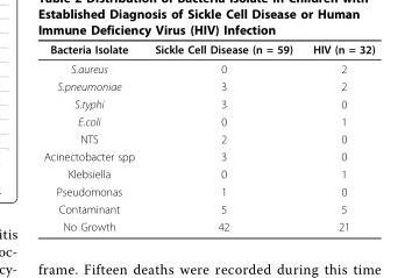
<table><thead><tr><td>Bacteria Isolate</td><td>Sickle Cell Disease (n = 59)</td><td>HIV (n = 32)</td></tr></thead><tbody><tr><td>S.aureus</td><td>0</td><td>2</td></tr><tr><td>S.pneumoniae</td><td>3</td><td>2</td></tr><tr><td>S.typhi</td><td>3</td><td>0</td></tr><tr><td>E.coli</td><td>0</td><td>1</td></tr><tr><td>NTS</td><td>2</td><td>0</td></tr><tr><td>Acinectobacter spp</td><td>3</td><td>0</td></tr><tr><td>Klebsiella</td><td>0</td><td>1</td></tr><tr><td>Pseudomonas</td><td>1</td><td>0</td></tr><tr><td>Contaminant</td><td>5</td><td>5</td></tr><tr><td>No Growth</td><td>42</td><td>21</td></tr></tbody></table>